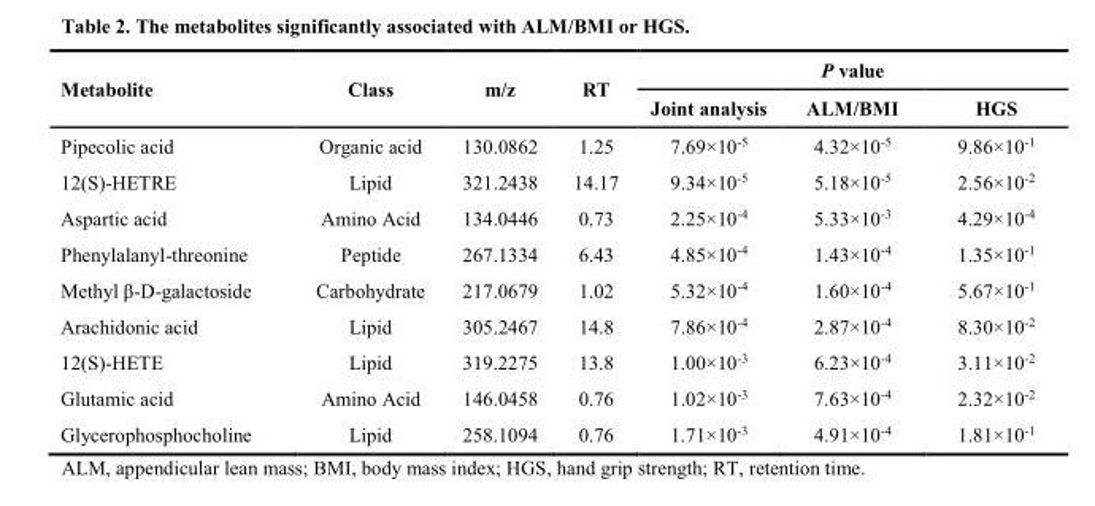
<table><tbody><tr><td rowspan="2">Metabolite</td><td rowspan="2">Class</td><td rowspan="2">m/z</td><td rowspan="2">RT</td><td colspan="3">P value</td></tr><tr><td>Joint analysis</td><td>ALM/BMI</td><td>HGS</td></tr><tr><td>Pipecolic acid</td><td>Organic acid</td><td>130.0862</td><td>1.25</td><td>7.69×10<sup>-5</sup></td><td>4.32×10<sup>-5</sup></td><td>9.86×10<sup>-1</sup></td></tr><tr><td>12(S)-HETRE</td><td>Lipid</td><td>321.2438</td><td>14.17</td><td>9.34×10<sup>-5</sup></td><td>5.18×10<sup>-5</sup></td><td>2.56×10<sup>-2</sup></td></tr><tr><td>Aspartic acid</td><td>Amino Acid</td><td>134.0446</td><td>0.73</td><td>2.25×10<sup>-4</sup></td><td>5.33×10<sup>-3</sup></td><td>4.29×10<sup>-4</sup></td></tr><tr><td>Phenylalanyl-threonine</td><td>Peptide</td><td>267.1334</td><td>6.43</td><td>4.85×10<sup>-4</sup></td><td>1.43×10<sup>-4</sup></td><td>1.35×10<sup>-1</sup></td></tr><tr><td>Methyl β-D-galactoside</td><td>Carbohydrate</td><td>217.0679</td><td>1.02</td><td>5.32×10<sup>-4</sup></td><td>1.60×10<sup>-4</sup></td><td>5.67×10<sup>-1</sup></td></tr><tr><td>Arachidonic acid</td><td>Lipid</td><td>305.2467</td><td>14.8</td><td>7.86×10<sup>-4</sup></td><td>2.87×10<sup>-4</sup></td><td>8.30×10<sup>-2</sup></td></tr><tr><td>12(S)-HETE</td><td>Lipid</td><td>319.2275</td><td>13.8</td><td>1.00×10<sup>-3</sup></td><td>6.23×10<sup>-4</sup></td><td>3.11×10<sup>-2</sup></td></tr><tr><td>Glutamic acid</td><td>Amino Acid</td><td>146.0458</td><td>0.76</td><td>1.02×10<sup>-3</sup></td><td>7.63×10<sup>-4</sup></td><td>2.32×10<sup>-2</sup></td></tr><tr><td>Glycerophosphocholine</td><td>Lipid</td><td>258.1094</td><td>0.76</td><td>1.71×10<sup>-3</sup></td><td>4.91×10<sup>-4</sup></td><td>1.81×10<sup>-1</sup></td></tr></tbody></table>